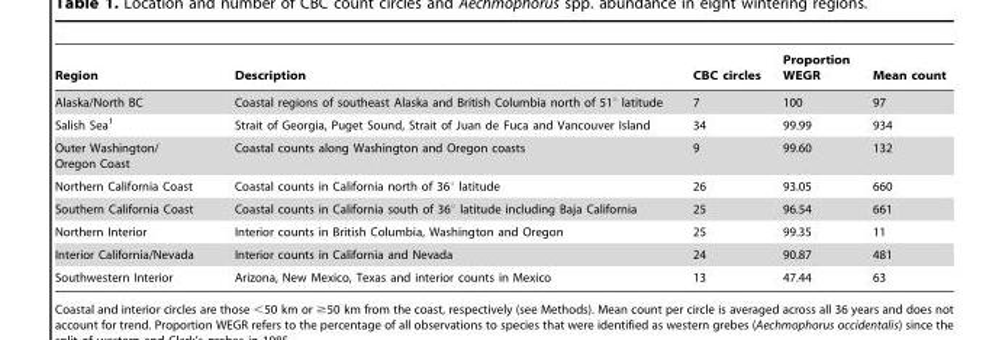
<table><thead><tr><td>Region</td><td>Description</td><td>CBC circles</td><td>Proportion WEGR</td><td>Mean count</td></tr></thead><tbody><tr><td>Alaska/North BC</td><td>Coastal regions of southeast Alaska and British Columbia north of 51° latitude</td><td>7</td><td>100</td><td>97</td></tr><tr><td>Salish Sea<sup>1</sup></td><td>Strait of Georgia, Puget Sound, Strait of Juan de Fuca and Vancouver Island</td><td>34</td><td>99.99</td><td>934</td></tr><tr><td>Outer Washington/ Oregon Coast</td><td>Coastal counts along Washington and Oregon coasts</td><td>9</td><td>99.60</td><td>132</td></tr><tr><td>Northern California Coast</td><td>Coastal counts in California north of 36° latitude</td><td>26</td><td>93.05</td><td>660</td></tr><tr><td>Southern California Coast</td><td>Coastal counts in California south of 36° latitude including Baja California</td><td>25</td><td>96.54</td><td>661</td></tr><tr><td>Northern Interior</td><td>Interior counts in British Columbia, Washington and Oregon</td><td>25</td><td>99.35</td><td>11</td></tr><tr><td>Interior California/Nevada</td><td>Interior counts in California and Nevada</td><td>24</td><td>90.87</td><td>481</td></tr><tr><td>Southwestern Interior</td><td>Arizona, New Mexico, Texas and interior counts in Mexico</td><td>13</td><td>47.44</td><td>63</td></tr></tbody></table>